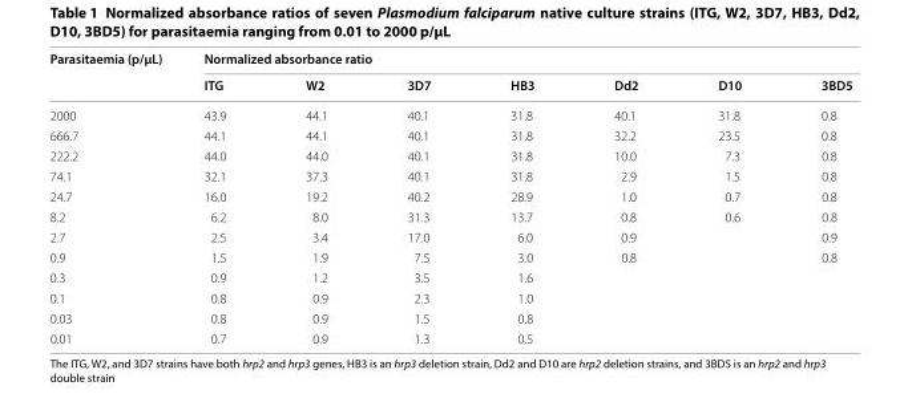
<table><thead><tr><td rowspan="2">Parasitaemia (p/µL)</td><td colspan="7">Normalized absorbance ratio</td></tr><tr><td>ITG</td><td>W2</td><td>3D7</td><td>HB3</td><td>Dd2</td><td>D10</td><td>3BD5</td></tr></thead><tbody><tr><td>2000</td><td>43.9</td><td>44.1</td><td>40.1</td><td>31.8</td><td>40.1</td><td>31.8</td><td>0.8</td></tr><tr><td>666.7</td><td>44.1</td><td>44.1</td><td>40.1</td><td>31.8</td><td>32.2</td><td>23.5</td><td>0.8</td></tr><tr><td>222.2</td><td>44.0</td><td>44.0</td><td>40.1</td><td>31.8</td><td>10.0</td><td>7.3</td><td>0.8</td></tr><tr><td>74.1</td><td>32.1</td><td>37.3</td><td>40.1</td><td>31.8</td><td>2.9</td><td>1.5</td><td>0.8</td></tr><tr><td>24.7</td><td>16.0</td><td>19.2</td><td>40.2</td><td>28.9</td><td>1.0</td><td>0.7</td><td>0.8</td></tr><tr><td>8.2</td><td>6.2</td><td>8.0</td><td>31.3</td><td>13.7</td><td>0.8</td><td>0.6</td><td>0.8</td></tr><tr><td>2.7</td><td>2.5</td><td>3.4</td><td>17.0</td><td>6.0</td><td>0.9</td><td></td><td>0.9</td></tr><tr><td>0.9</td><td>1.5</td><td>1.9</td><td>7.5</td><td>3.0</td><td>0.8</td><td></td><td>0.8</td></tr><tr><td>0.3</td><td>0.9</td><td>1.2</td><td>3.5</td><td>1.6</td><td></td><td></td><td></td></tr><tr><td>0.1</td><td>0.8</td><td>0.9</td><td>2.3</td><td>1.0</td><td></td><td></td><td></td></tr><tr><td>0.03</td><td>0.8</td><td>0.9</td><td>1.5</td><td>0.8</td><td></td><td></td><td></td></tr><tr><td>0.01</td><td>0.7</td><td>0.9</td><td>1.3</td><td>0.5</td><td></td><td></td><td></td></tr></tbody></table>